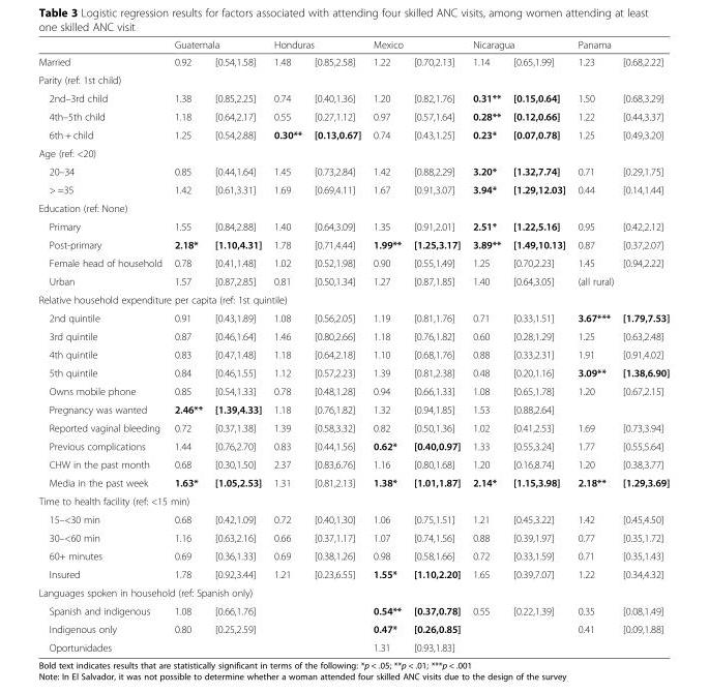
<table><thead><tr><td rowspan="2">Married</td><td colspan="2">Guatemala</td><td colspan="2">Honduras</td><td colspan="2">Mexico</td><td colspan="2">Nicaragua</td><td colspan="2">Panama</td></tr><tr><td>0.92</td><td>[0.54,1.58]</td><td>1.48</td><td>[0.85,2.58]</td><td>1.22</td><td>[0.70,2.13]</td><td>1.14</td><td>[0.65,1.99]</td><td>1.23</td><td>[0.68,2.22]</td></tr></thead><tbody><tr><td colspan="11">Parity (ref: 1st child)</td></tr><tr><td>2nd–3rd child</td><td>1.38</td><td>[0.85,2.25]</td><td>0.74</td><td>[0.40,1.36]</td><td>1.20</td><td>[0.82,1.76]</td><td>0.31**</td><td>[0.15,0.64]</td><td>1.50</td><td>[0.68,3.29]</td></tr><tr><td>4th–5th child</td><td>1.18</td><td>[0.64,2.17]</td><td>0.55</td><td>[0.27,1.12]</td><td>0.97</td><td>[0.57,1.64]</td><td>0.28**</td><td>[0.12,0.66]</td><td>1.22</td><td>[0.44,3.37]</td></tr><tr><td>6th + child</td><td>1.25</td><td>[0.54,2.88]</td><td>0.30**</td><td>[0.13,0.67]</td><td>0.74</td><td>[0.43,1.25]</td><td>0.23*</td><td>[0.07,0.78]</td><td>1.25</td><td>[0.49,3.20]</td></tr><tr><td colspan="11">Age (ref: &lt;20)</td></tr><tr><td>20–34</td><td>0.85</td><td>[0.44,1.64]</td><td>1.45</td><td>[0.73,2.84]</td><td>1.42</td><td>[0.88,2.29]</td><td>3.20*</td><td>[1.32,7.74]</td><td>0.71</td><td>[0.29,1.75]</td></tr><tr><td>&gt; =35</td><td>1.42</td><td>[0.61,3.31]</td><td>1.69</td><td>[0.69,4.11]</td><td>1.67</td><td>[0.91,3.07]</td><td>3.94*</td><td>[1.29,12.03]</td><td>0.44</td><td>[0.14,1.44]</td></tr><tr><td colspan="11">Education (ref: None)</td></tr><tr><td>Primary</td><td>1.55</td><td>[0.84,2.88]</td><td>1.40</td><td>[0.64,3.09]</td><td>1.35</td><td>[0.91,2.01]</td><td>2.51*</td><td>[1.22,5.16]</td><td>0.95</td><td>[0.42,2.12]</td></tr><tr><td>Post-primary</td><td>2.18*</td><td>[1.10,4.31]</td><td>1.78</td><td>[0.71,4.44]</td><td>1.99**</td><td>[1.25,3.17]</td><td>3.89**</td><td>[1.49,10.13]</td><td>0.87</td><td>[0.37,2.07]</td></tr><tr><td>Female head of household</td><td>0.78</td><td>[0.41,1.48]</td><td>1.02</td><td>[0.52,1.98]</td><td>0.90</td><td>[0.55,1.49]</td><td>1.25</td><td>[0.70,2.23]</td><td>1.45</td><td>[0.94,2.22]</td></tr><tr><td>Urban</td><td>1.57</td><td>[0.87,2.85]</td><td>0.81</td><td>[0.50,1.34]</td><td>1.27</td><td>[0.87,1.85]</td><td>1.40</td><td>[0.64,3.05]</td><td colspan="2">(all rural)</td></tr><tr><td colspan="11">Relative household expenditure per capita (ref: 1st quintile)</td></tr><tr><td>2nd quintile</td><td>0.91</td><td>[0.43,1.89]</td><td>1.08</td><td>[0.56,2.05]</td><td>1.19</td><td>[0.81,1.76]</td><td>0.71</td><td>[0.33,1.51]</td><td>3.67***</td><td>[1.79,7.53]</td></tr><tr><td>3rd quintile</td><td>0.87</td><td>[0.46,1.64]</td><td>1.46</td><td>[0.80,2.66]</td><td>1.18</td><td>[0.76,1.82]</td><td>0.60</td><td>[0.28,1.29]</td><td>1.25</td><td>[0.63,2.48]</td></tr><tr><td>4th quintile</td><td>0.83</td><td>[0.47,1.48]</td><td>1.18</td><td>[0.64,2.18]</td><td>1.10</td><td>[0.68,1.76]</td><td>0.88</td><td>[0.33,2.31]</td><td>1.91</td><td>[0.91,4.02]</td></tr><tr><td>5th quintile</td><td>0.84</td><td>[0.46,1.55]</td><td>1.12</td><td>[0.57,2.23]</td><td>1.39</td><td>[0.81,2.38]</td><td>0.48</td><td>[0.20,1.16]</td><td>3.09**</td><td>[1.38,6.90]</td></tr><tr><td>Owns mobile phone</td><td>0.85</td><td>[0.54,1.33]</td><td>0.78</td><td>[0.48,1.28]</td><td>0.94</td><td>[0.66,1.33]</td><td>1.08</td><td>[0.65,1.78]</td><td>1.20</td><td>[0.67,2.15]</td></tr><tr><td>Pregnancy was wanted</td><td>2.46**</td><td>[1.39,4.33]</td><td>1.18</td><td>[0.76,1.82]</td><td>1.32</td><td>[0.94,1.85]</td><td>1.53</td><td>[0.88,2.64]</td><td></td><td></td></tr><tr><td>Reported vaginal bleeding</td><td>0.72</td><td>[0.37,1.38]</td><td>1.39</td><td>[0.58,3.32]</td><td>0.82</td><td>[0.50,1.36]</td><td>1.02</td><td>[0.41,2.53]</td><td>1.69</td><td>[0.73,3.94]</td></tr><tr><td>Previous complications</td><td>1.44</td><td>[0.76,2.70]</td><td>0.83</td><td>[0.44,1.56]</td><td>0.62*</td><td>[0.40,0.97]</td><td>1.33</td><td>[0.55,3.24]</td><td>1.77</td><td>[0.55,5.64]</td></tr><tr><td>CHW in the past month</td><td>0.68</td><td>[0.30,1.50]</td><td>2.37</td><td>[0.83,6.76]</td><td>1.16</td><td>[0.80,1.68]</td><td>1.20</td><td>[0.16,8.74]</td><td>1.20</td><td>[0.38,3.77]</td></tr><tr><td>Media in the past week</td><td>1.63*</td><td>[1.05,2.53]</td><td>1.31</td><td>[0.81,2.13]</td><td>1.38*</td><td>[1.01,1.87]</td><td>2.14*</td><td>[1.15,3.98]</td><td>2.18**</td><td>[1.29,3.69]</td></tr><tr><td colspan="11">Time to health facility (ref: &lt;15 min)</td></tr><tr><td>15–&lt;30 min</td><td>0.68</td><td>[0.42,1.09]</td><td>0.72</td><td>[0.40,1.30]</td><td>1.06</td><td>[0.75,1.51]</td><td>1.21</td><td>[0.45,3.22]</td><td>1.42</td><td>[0.45,4.50]</td></tr><tr><td>30–&lt;60 min</td><td>1.16</td><td>[0.63,2.16]</td><td>0.66</td><td>[0.37,1.17]</td><td>1.07</td><td>[0.74,1.56]</td><td>0.88</td><td>[0.39,1.97]</td><td>0.77</td><td>[0.35,1.72]</td></tr><tr><td>60+ minutes</td><td>0.69</td><td>[0.36,1.33]</td><td>0.69</td><td>[0.38,1.26]</td><td>0.98</td><td>[0.58,1.66]</td><td>0.72</td><td>[0.33,1.59]</td><td>0.71</td><td>[0.35,1.43]</td></tr><tr><td>Insured</td><td>1.78</td><td>[0.92,3.44]</td><td>1.21</td><td>[0.23,6.55]</td><td>1.55*</td><td>[1.10,2.20]</td><td>1.65</td><td>[0.39,7.07]</td><td>1.22</td><td>[0.34,4.32]</td></tr><tr><td colspan="11">Languages spoken in household (ref: Spanish only)</td></tr><tr><td>Spanish and indigenous</td><td>1.08</td><td>[0.66,1.76]</td><td></td><td></td><td>0.54**</td><td>[0.37,0.78]</td><td>0.55</td><td>[0.22,1.39]</td><td>0.35</td><td>[0.08,1.49]</td></tr><tr><td>Indigenous only</td><td>0.80</td><td>[0.25,2.59]</td><td></td><td></td><td>0.47*</td><td>[0.26,0.85]</td><td></td><td></td><td>0.41</td><td>[0.09,1.88]</td></tr><tr><td>Oportunidades</td><td></td><td></td><td></td><td></td><td>1.31</td><td>[0.93,1.83]</td><td></td><td></td><td></td><td></td></tr></tbody></table>